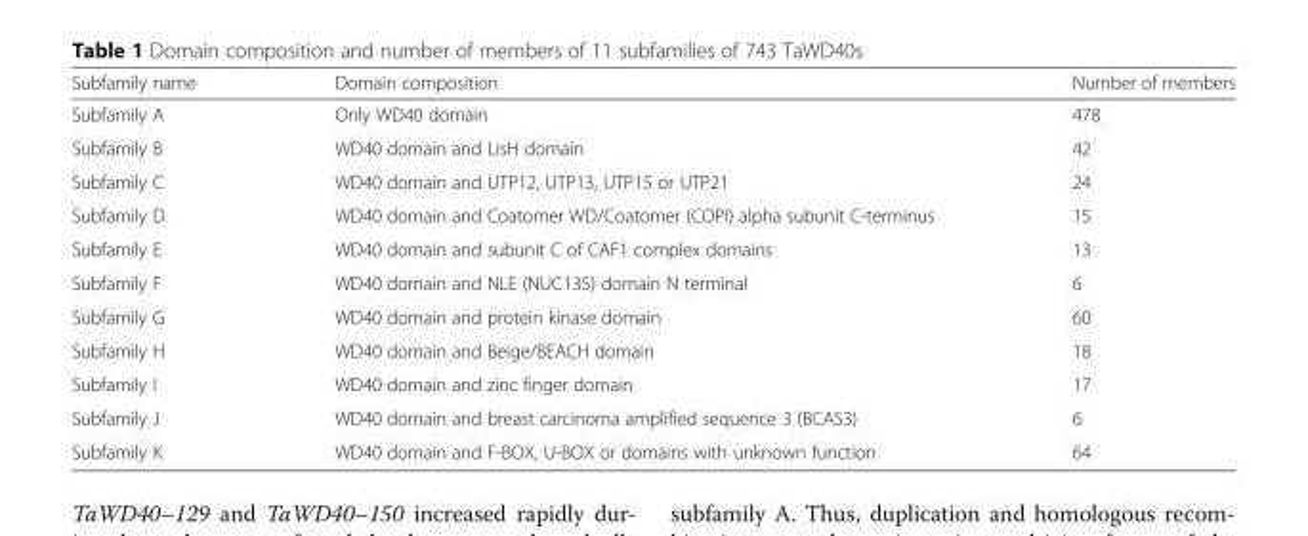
<table><thead><tr><td>Subfamily name</td><td>Domain composition</td><td>Number of members</td></tr></thead><tbody><tr><td>Subfamily A</td><td>Only WD40 domain</td><td>478</td></tr><tr><td>Subfamily B</td><td>WD40 domain and LisH domain</td><td>42</td></tr><tr><td>Subfamily C</td><td>WD40 domain and UTP12, UTP13, UTP15 or UTP21</td><td>24</td></tr><tr><td>Subfamily D</td><td>WD40 domain and Coatomer WD/Coatomer (COPI) alpha subunit C-terminus</td><td>15</td></tr><tr><td>Subfamily E</td><td>WD40 domain and subunit C of CAF1 complex domains</td><td>13</td></tr><tr><td>Subfamily F</td><td>WD40 domain and NLE (NUC135) domain N terminal</td><td>6</td></tr><tr><td>Subfamily G</td><td>WD40 domain and protein kinase domain</td><td>60</td></tr><tr><td>Subfamily H</td><td>WD40 domain and Beige/BEACH domain</td><td>18</td></tr><tr><td>Subfamily I</td><td>WD40 domain and zinc finger domain</td><td>17</td></tr><tr><td>Subfamily J</td><td>WD40 domain and breast carcinoma amplified sequence 3 (BCAS3)</td><td>6</td></tr><tr><td>Subfamily K</td><td>WD40 domain and F-BOX, U-BOX or domains with unknown function</td><td>64</td></tr></tbody></table>